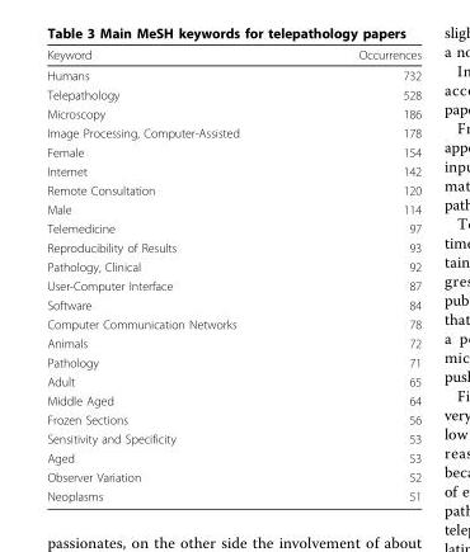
<table><thead><tr><td>Keyword</td><td>Occurrences</td></tr></thead><tbody><tr><td>Humans</td><td>732</td></tr><tr><td>Telepathology</td><td>528</td></tr><tr><td>Microscopy</td><td>186</td></tr><tr><td>Image Processing, Computer-Assisted</td><td>178</td></tr><tr><td>Female</td><td>154</td></tr><tr><td>Internet</td><td>142</td></tr><tr><td>Remote Consultation</td><td>120</td></tr><tr><td>Male</td><td>114</td></tr><tr><td>Telemedicine</td><td>97</td></tr><tr><td>Reproducibility of Results</td><td>93</td></tr><tr><td>Pathology, Clinical</td><td>92</td></tr><tr><td>User-Computer Interface</td><td>87</td></tr><tr><td>Software</td><td>84</td></tr><tr><td>Computer Communication Networks</td><td>78</td></tr><tr><td>Animals</td><td>72</td></tr><tr><td>Pathology</td><td>71</td></tr><tr><td>Adult</td><td>65</td></tr><tr><td>Middle Aged</td><td>64</td></tr><tr><td>Frozen Sections</td><td>56</td></tr><tr><td>Sensitivity and Specificity</td><td>53</td></tr><tr><td>Aged</td><td>53</td></tr><tr><td>Observer Variation</td><td>52</td></tr><tr><td>Neoplasms</td><td>51</td></tr></tbody></table>